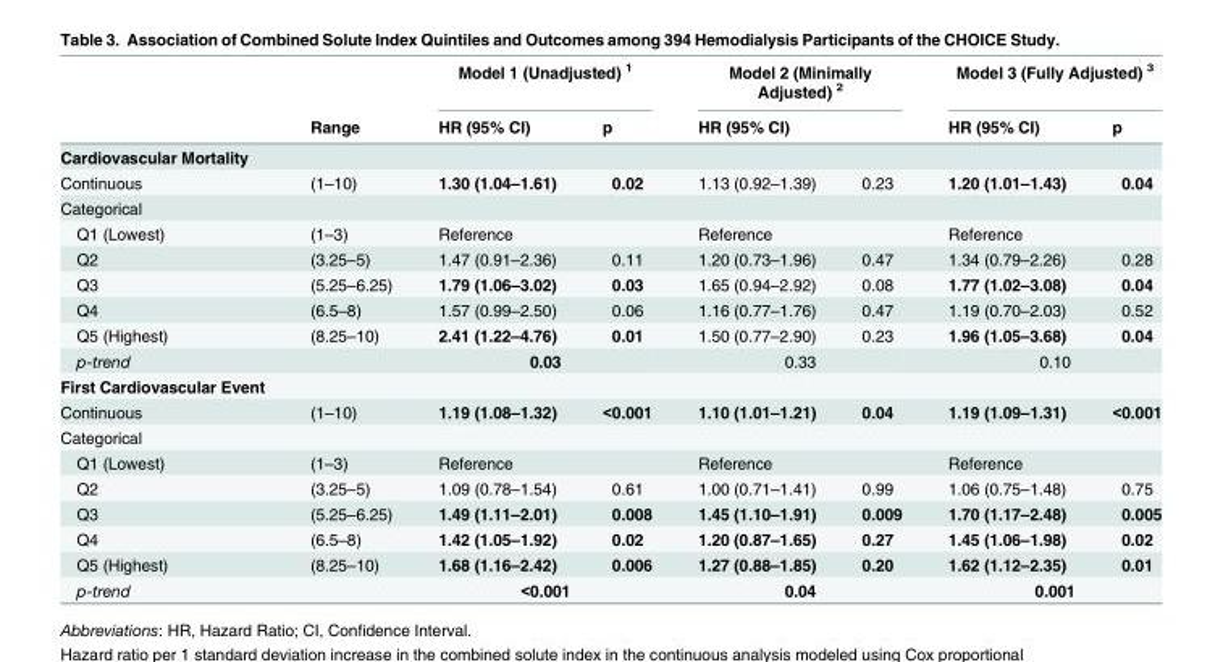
<table><thead><tr><td rowspan="2"></td><td rowspan="2">Range</td><td colspan="2">Model 1 (Unadjusted) <sup>1</sup></td><td colspan="2">Model 2 (Minimally Adjusted) <sup>2</sup></td><td colspan="2">Model 3 (Fully Adjusted) <sup>3</sup></td></tr><tr><td>HR (95% CI)</td><td>p</td><td>HR (95% CI)</td><td></td><td>HR (95% CI)</td><td>p</td></tr></thead><tbody><tr><td colspan="8">Cardiovascular Mortality</td></tr><tr><td>Continuous</td><td>(1–10)</td><td>1.30 (1.04–1.61)</td><td>0.02</td><td>1.13 (0.92–1.39)</td><td>0.23</td><td>1.20 (1.01–1.43)</td><td>0.04</td></tr><tr><td colspan="8">Categorical</td></tr><tr><td>Q1 (Lowest)</td><td>(1–3)</td><td>Reference</td><td></td><td>Reference</td><td></td><td>Reference</td><td></td></tr><tr><td>Q2</td><td>(3.25–5)</td><td>1.47 (0.91–2.36)</td><td>0.11</td><td>1.20 (0.73–1.96)</td><td>0.47</td><td>1.34 (0.79–2.26)</td><td>0.28</td></tr><tr><td>Q3</td><td>(5.25–6.25)</td><td>1.79 (1.06–3.02)</td><td>0.03</td><td>1.65 (0.94–2.92)</td><td>0.08</td><td>1.77 (1.02–3.08)</td><td>0.04</td></tr><tr><td>Q4</td><td>(6.5–8)</td><td>1.57 (0.99–2.50)</td><td>0.06</td><td>1.16 (0.77–1.76)</td><td>0.47</td><td>1.19 (0.70–2.03)</td><td>0.52</td></tr><tr><td>Q5 (Highest)</td><td>(8.25–10)</td><td>2.41 (1.22–4.76)</td><td>0.01</td><td>1.50 (0.77–2.90)</td><td>0.23</td><td>1.96 (1.05–3.68)</td><td>0.04</td></tr><tr><td>p-trend</td><td></td><td colspan="2">0.03</td><td colspan="2">0.33</td><td colspan="2">0.10</td></tr><tr><td colspan="8">First Cardiovascular Event</td></tr><tr><td>Continuous</td><td>(1–10)</td><td>1.19 (1.08–1.32)</td><td>&lt;0.001</td><td>1.10 (1.01–1.21)</td><td>0.04</td><td>1.19 (1.09–1.31)</td><td>&lt;0.001</td></tr><tr><td colspan="8">Categorical</td></tr><tr><td>Q1 (Lowest)</td><td>(1–3)</td><td>Reference</td><td></td><td>Reference</td><td></td><td>Reference</td><td></td></tr><tr><td>Q2</td><td>(3.25–5)</td><td>1.09 (0.78–1.54)</td><td>0.61</td><td>1.00 (0.71–1.41)</td><td>0.99</td><td>1.06 (0.75–1.48)</td><td>0.75</td></tr><tr><td>Q3</td><td>(5.25–6.25)</td><td>1.49 (1.11–2.01)</td><td>0.008</td><td>1.45 (1.10–1.91)</td><td>0.009</td><td>1.70 (1.17–2.48)</td><td>0.005</td></tr><tr><td>Q4</td><td>(6.5–8)</td><td>1.42 (1.05–1.92)</td><td>0.02</td><td>1.20 (0.87–1.65)</td><td>0.27</td><td>1.45 (1.06–1.98)</td><td>0.02</td></tr><tr><td>Q5 (Highest)</td><td>(8.25–10)</td><td>1.68 (1.16–2.42)</td><td>0.006</td><td>1.27 (0.88–1.85)</td><td>0.20</td><td>1.62 (1.12–2.35)</td><td>0.01</td></tr><tr><td>p-trend</td><td></td><td colspan="2">&lt;0.001</td><td colspan="2">0.04</td><td colspan="2">0.001</td></tr></tbody></table>